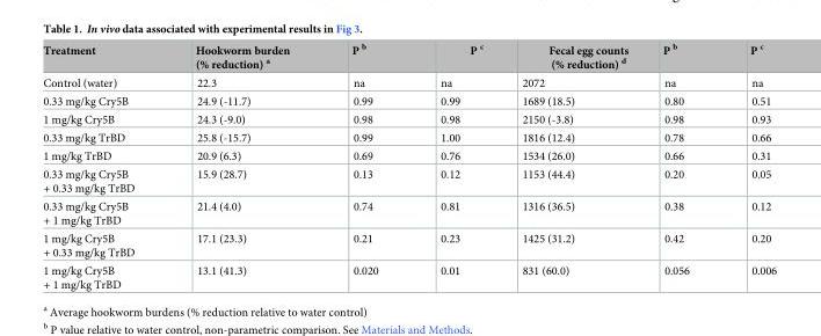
<table><thead><tr><td>Treatment</td><td>Hookworm burden (% reduction) <sup>a</sup></td><td>P <sup>b</sup></td><td>P <sup>c</sup></td><td>Fecal egg counts (% reduction) <sup>d</sup></td><td>P <sup>b</sup></td><td>P <sup>c</sup></td></tr></thead><tbody><tr><td>Control (water)</td><td>22.3</td><td>na</td><td>na</td><td>2072</td><td>na</td><td>na</td></tr><tr><td>0.33 mg/kg Cry5B</td><td>24.9 (-11.7)</td><td>0.99</td><td>0.99</td><td>1689 (18.5)</td><td>0.80</td><td>0.51</td></tr><tr><td>1 mg/kg Cry5B</td><td>24.3 (-9.0)</td><td>0.98</td><td>0.98</td><td>2150 (-3.8)</td><td>0.98</td><td>0.93</td></tr><tr><td>0.33 mg/kg TrBD</td><td>25.8 (-15.7)</td><td>0.99</td><td>1.00</td><td>1816 (12.4)</td><td>0.78</td><td>0.66</td></tr><tr><td>1 mg/kg TrBD</td><td>20.9 (6.3)</td><td>0.69</td><td>0.76</td><td>1534 (26.0)</td><td>0.66</td><td>0.31</td></tr><tr><td>0.33 mg/kg Cry5B + 0.33 mg/kg TrBD</td><td>15.9 (28.7)</td><td>0.13</td><td>0.12</td><td>1153 (44.4)</td><td>0.20</td><td>0.05</td></tr><tr><td>0.33 mg/kg Cry5B + 1 mg/kg TrBD</td><td>21.4 (4.0)</td><td>0.74</td><td>0.81</td><td>1316 (36.5)</td><td>0.38</td><td>0.12</td></tr><tr><td>1 mg/kg Cry5B + 0.33 mg/kg TrBD</td><td>17.1 (23.3)</td><td>0.21</td><td>0.23</td><td>1425 (31.2)</td><td>0.42</td><td>0.20</td></tr><tr><td>1 mg/kg Cry5B + 1 mg/kg TrBD</td><td>13.1 (41.3)</td><td>0.020</td><td>0.01</td><td>831 (60.0)</td><td>0.056</td><td>0.006</td></tr></tbody></table>